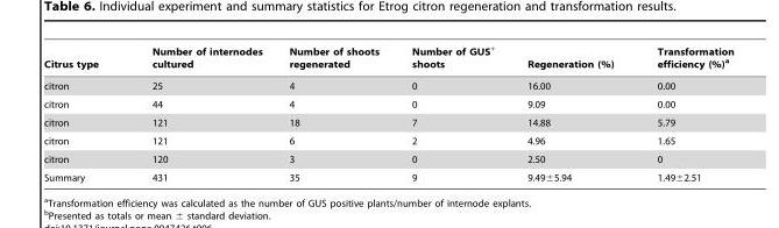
<table><thead><tr><td>Citrus type</td><td>Number of internodes cultured</td><td>Number of shoots regenerated</td><td>Number of GUS<sup>+</sup> shoots</td><td>Regeneration (%)</td><td>Transformation efficiency (%)<sup>a</sup></td></tr></thead><tbody><tr><td>citron</td><td>25</td><td>4</td><td>0</td><td>16.00</td><td>0.00</td></tr><tr><td>citron</td><td>44</td><td>4</td><td>0</td><td>9.09</td><td>0.00</td></tr><tr><td>citron</td><td>121</td><td>18</td><td>7</td><td>14.88</td><td>5.79</td></tr><tr><td>citron</td><td>121</td><td>6</td><td>2</td><td>4.96</td><td>1.65</td></tr><tr><td>citron</td><td>120</td><td>3</td><td>0</td><td>2.50</td><td>0</td></tr><tr><td>Summary</td><td>431</td><td>35</td><td>9</td><td>9.49±5.94</td><td>1.49±2.51</td></tr></tbody></table>